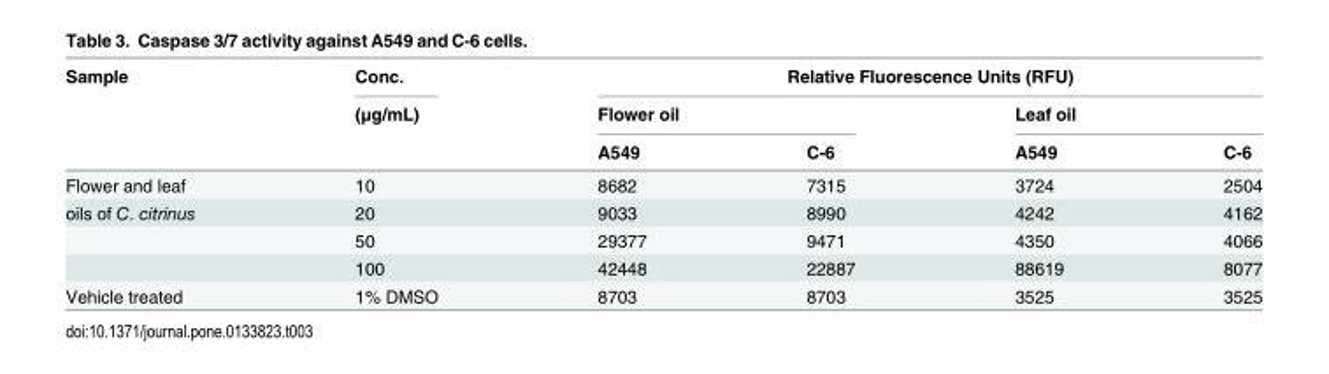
<table><thead><tr><td rowspan="3">Sample</td><td rowspan="3">Conc. (μg/mL)</td><td colspan="4">Relative Fluorescence Units (RFU)</td></tr><tr><td colspan="2">Flower oil</td><td colspan="2">Leaf oil</td></tr><tr><td>A549</td><td>C-6</td><td>A549</td><td>C-6</td></tr></thead><tbody><tr><td>Flower and leaf</td><td>10</td><td>8682</td><td>7315</td><td>3724</td><td>2504</td></tr><tr><td rowspan="3">oils of C. citrinus</td><td>20</td><td>9033</td><td>8990</td><td>4242</td><td>4162</td></tr><tr><td>50</td><td>29377</td><td>9471</td><td>4350</td><td>4066</td></tr><tr><td>100</td><td>42448</td><td>22887</td><td>88619</td><td>8077</td></tr><tr><td>Vehicle treated</td><td>1% DMSO</td><td>8703</td><td>8703</td><td>3525</td><td>3525</td></tr></tbody></table>